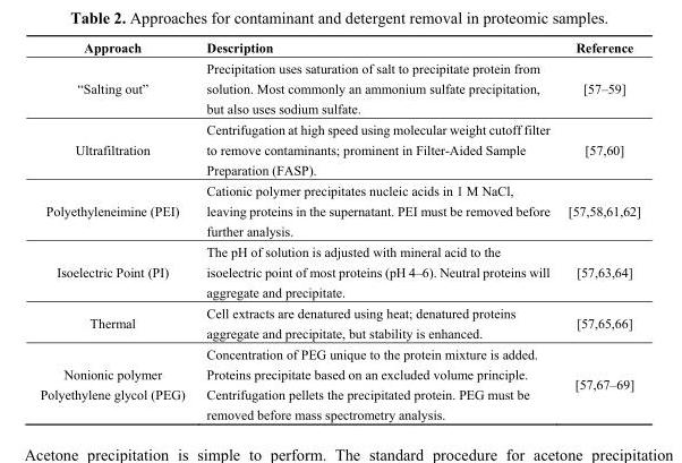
<table><thead><tr><td>Approach</td><td>Description</td><td>Reference</td></tr></thead><tbody><tr><td>“Salting out”</td><td>Precipitation uses saturation of salt to precipitate protein from solution. Most commonly an ammonium sulfate precipitation, but also uses sodium sulfate.</td><td>[57–59]</td></tr><tr><td>Ultrafiltration</td><td>Centrifugation at high speed using molecular weight cutoff filter to remove contaminants; prominent in Filter-Aided Sample Preparation (FASP).</td><td>[57,60]</td></tr><tr><td>Polyethyleneimine (PEI)</td><td>Cationic polymer precipitates nucleic acids in 1 M NaCl, leaving proteins in the supernatant. PEI must be removed before further analysis.</td><td>[57,58,61,62]</td></tr><tr><td>Isoelectric Point (PI)</td><td>The pH of solution is adjusted with mineral acid to the isoelectric point of most proteins (pH 4–6). Neutral proteins will aggregate and precipitate.</td><td>[57,63,64]</td></tr><tr><td>Thermal</td><td>Cell extracts are denatured using heat; denatured proteins aggregate and precipitate, but stability is enhanced.</td><td>[57,65,66]</td></tr><tr><td>Nonionic polymer Polyethylene glycol (PEG)</td><td>Concentration of PEG unique to the protein mixture is added. Proteins precipitate based on an excluded volume principle. Centrifugation pellets the precipitated protein. PEG must be removed before mass spectrometry analysis.</td><td>[57,67–69]</td></tr></tbody></table>